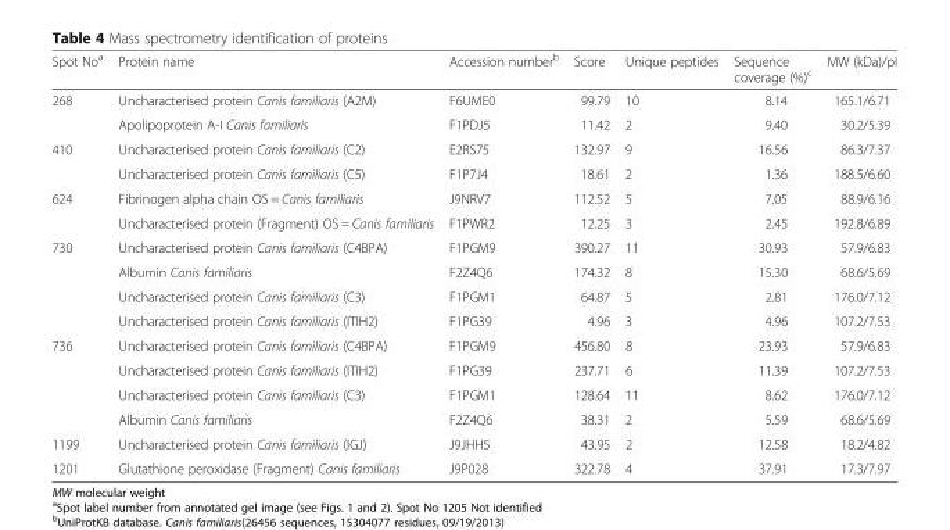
<table><thead><tr><td>Spot No<sup>a</sup></td><td>Protein name</td><td>Accession number<sup>b</sup></td><td>Score</td><td>Unique peptides</td><td>Sequence coverage (%)<sup>c</sup></td><td>MW (kDa)/pI</td></tr></thead><tbody><tr><td rowspan="2">268</td><td>Uncharacterised protein Canis familiaris (A2M)</td><td>F6UME0</td><td>99.79</td><td>10</td><td>8.14</td><td>165.1/6.71</td></tr><tr><td>Apolipoprotein A-I Canis familiaris</td><td>F1PDJ5</td><td>11.42</td><td>2</td><td>9.40</td><td>30.2/5.39</td></tr><tr><td rowspan="2">410</td><td>Uncharacterised protein Canis familiaris (C2)</td><td>E2RS75</td><td>132.97</td><td>9</td><td>16.56</td><td>86.3/7.37</td></tr><tr><td>Uncharacterised protein Canis familiaris (C5)</td><td>F1P7J4</td><td>18.61</td><td>2</td><td>1.36</td><td>188.5/6.60</td></tr><tr><td rowspan="2">624</td><td>Fibrinogen alpha chain OS = Canis familiaris</td><td>J9NRV7</td><td>112.52</td><td>5</td><td>7.05</td><td>88.9/6.16</td></tr><tr><td>Uncharacterised protein (Fragment) OS = Canis familiaris</td><td>F1PWR2</td><td>12.25</td><td>3</td><td>2.45</td><td>192.8/6.89</td></tr><tr><td rowspan="4">730</td><td>Uncharacterised protein Canis familiaris (C4BPA)</td><td>F1PGM9</td><td>390.27</td><td>11</td><td>30.93</td><td>57.9/6.83</td></tr><tr><td>Albumin Canis familiaris</td><td>F2Z4Q6</td><td>174.32</td><td>8</td><td>15.30</td><td>68.6/5.69</td></tr><tr><td>Uncharacterised protein Canis familiaris (C3)</td><td>F1PGM1</td><td>64.87</td><td>5</td><td>2.81</td><td>176.0/7.12</td></tr><tr><td>Uncharacterised protein Canis familiaris (ITIH2)</td><td>F1PG39</td><td>4.96</td><td>3</td><td>4.96</td><td>107.2/7.53</td></tr><tr><td rowspan="4">736</td><td>Uncharacterised protein Canis familiaris (C4BPA)</td><td>F1PGM9</td><td>456.80</td><td>8</td><td>23.93</td><td>57.9/6.83</td></tr><tr><td>Uncharacterised protein Canis familiaris (ITIH2)</td><td>F1PG39</td><td>237.71</td><td>6</td><td>11.39</td><td>107.2/7.53</td></tr><tr><td>Uncharacterised protein Canis familiaris (C3)</td><td>F1PGM1</td><td>128.64</td><td>11</td><td>8.62</td><td>176.0/7.12</td></tr><tr><td>Albumin Canis familiaris</td><td>F2Z4Q6</td><td>38.31</td><td>2</td><td>5.59</td><td>68.6/5.69</td></tr><tr><td>1199</td><td>Uncharacterised protein Canis familiaris (IGJ)</td><td>J9JHH5</td><td>43.95</td><td>2</td><td>12.58</td><td>18.2/4.82</td></tr><tr><td>1201</td><td>Glutathione peroxidase (Fragment) Canis familiaris</td><td>J9P028</td><td>322.78</td><td>4</td><td>37.91</td><td>17.3/7.97</td></tr></tbody></table>